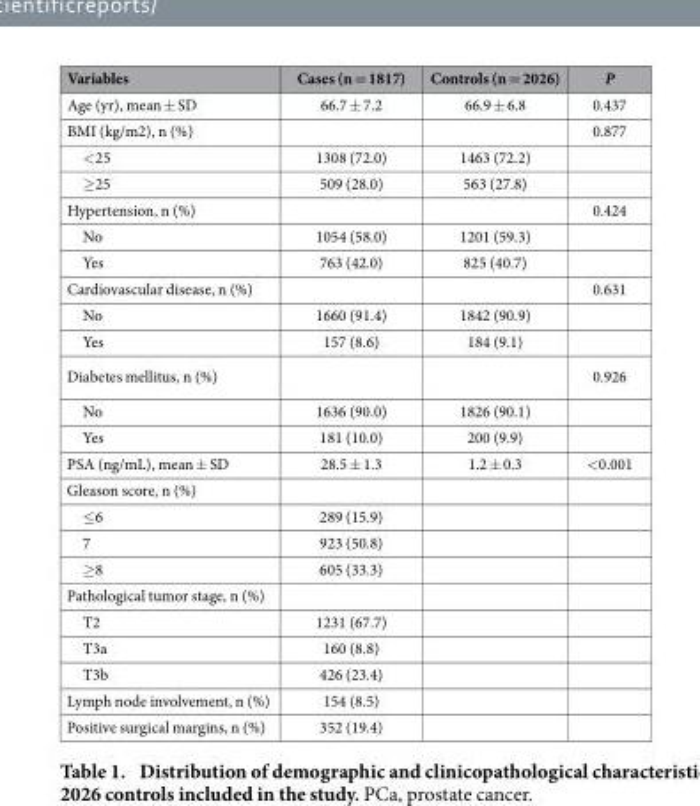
<table><thead><tr><td>Variables</td><td>Cases (n = 1817)</td><td>Controls (n = 2026)</td><td>P</td></tr></thead><tbody><tr><td>Age (yr), mean ± SD</td><td>66.7 ± 7.2</td><td>66.9 ± 6.8</td><td>0.437</td></tr><tr><td>BMI (kg/m2), n (%)</td><td></td><td></td><td>0.877</td></tr><tr><td>&lt; 25</td><td>1308 (72.0)</td><td>1463 (72.2)</td><td></td></tr><tr><td>≥ 25</td><td>509 (28.0)</td><td>563 (27.8)</td><td></td></tr><tr><td>Hypertension, n (%)</td><td></td><td></td><td>0.424</td></tr><tr><td>No</td><td>1054 (58.0)</td><td>1201 (59.3)</td><td></td></tr><tr><td>Yes</td><td>763 (42.0)</td><td>825 (40.7)</td><td></td></tr><tr><td>Cardiovascular disease, n (%)</td><td></td><td></td><td>0.631</td></tr><tr><td>No</td><td>1660 (91.4)</td><td>1842 (90.9)</td><td></td></tr><tr><td>Yes</td><td>157 (8.6)</td><td>184 (9.1)</td><td></td></tr><tr><td>Diabetes mellitus, n (%)</td><td></td><td></td><td>0.926</td></tr><tr><td>No</td><td>1636 (90.0)</td><td>1826 (90.1)</td><td></td></tr><tr><td>Yes</td><td>181 (10.0)</td><td>200 (9.9)</td><td></td></tr><tr><td>PSA (ng/mL), mean ± SD</td><td>28.5 ± 1.3</td><td>1.2 ± 0.3</td><td>&lt; 0.001</td></tr><tr><td colspan="4">Gleason score, n (%)</td></tr><tr><td>≤ 6</td><td>289 (15.9)</td><td></td><td></td></tr><tr><td>7</td><td>923 (50.8)</td><td></td><td></td></tr><tr><td>≥ 8</td><td>605 (33.3)</td><td></td><td></td></tr><tr><td colspan="4">Pathological tumor stage, n (%)</td></tr><tr><td>T2</td><td>1231 (67.7)</td><td></td><td></td></tr><tr><td>T3a</td><td>160 (8.8)</td><td></td><td></td></tr><tr><td>T3b</td><td>426 (23.4)</td><td></td><td></td></tr><tr><td>Lymph node involvement, n (%)</td><td>154 (8.5)</td><td></td><td></td></tr><tr><td>Positive surgical margins, n (%)</td><td>352 (19.4)</td><td></td><td></td></tr></tbody></table>